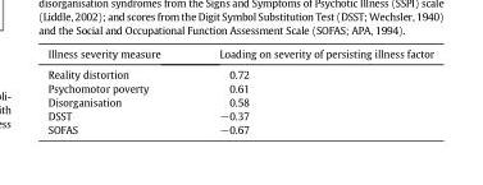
<table><thead><tr><td>Illness severity measure</td><td>Loading on severity of persisting illness factor</td></tr></thead><tbody><tr><td>Reality distortion</td><td>0.72</td></tr><tr><td>Psychomotor poverty</td><td>0.61</td></tr><tr><td>Disorganisation</td><td>0.58</td></tr><tr><td>DSST</td><td>−0.37</td></tr><tr><td>SOFAS</td><td>−0.67</td></tr></tbody></table>